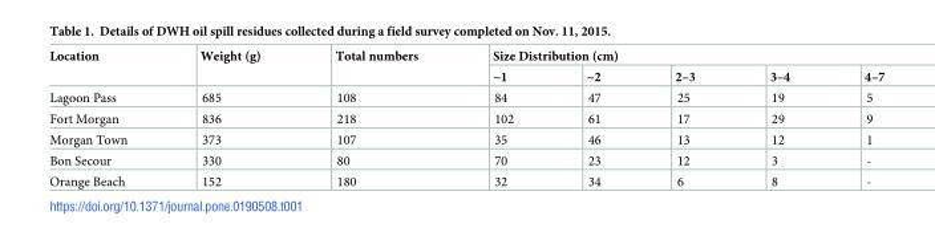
<table><thead><tr><td rowspan="2">Location</td><td rowspan="2">Weight (g)</td><td rowspan="2">Total numbers</td><td colspan="5">Size Distribution (cm)</td></tr><tr><td>~1</td><td>~2</td><td>2–3</td><td>3–4</td><td>4–7</td></tr></thead><tbody><tr><td>Lagoon Pass</td><td>685</td><td>108</td><td>84</td><td>47</td><td>25</td><td>19</td><td>5</td></tr><tr><td>Fort Morgan</td><td>836</td><td>218</td><td>102</td><td>61</td><td>17</td><td>29</td><td>9</td></tr><tr><td>Morgan Town</td><td>373</td><td>107</td><td>35</td><td>46</td><td>13</td><td>12</td><td>1</td></tr><tr><td>Bon Secour</td><td>330</td><td>80</td><td>70</td><td>23</td><td>12</td><td>3</td><td>-</td></tr><tr><td>Orange Beach</td><td>152</td><td>180</td><td>32</td><td>34</td><td>6</td><td>8</td><td>-</td></tr></tbody></table>